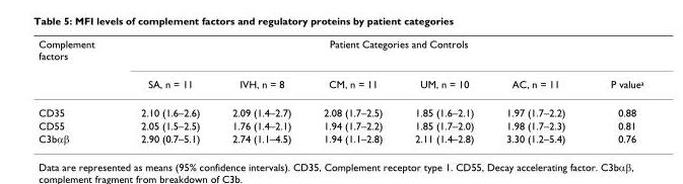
<table><thead><tr><td rowspan="2">Complement factors</td><td colspan="6">Patient Categories and Controls</td></tr><tr><td>SA, n = 11</td><td>IVH, n = 8</td><td>CM, n = 11</td><td>UM, n = 10</td><td>AC, n = 11</td><td>P value<sup>a</sup></td></tr></thead><tbody><tr><td>CD35</td><td>2.10 (1.6–2.6)</td><td>2.09 (1.4–2.7)</td><td>2.08 (1.7–2.5)</td><td>1.85 (1.6–2.1)</td><td>1.97 (1.7–2.2)</td><td>0.88</td></tr><tr><td>CD55</td><td>2.05 (1.5–2.5)</td><td>1.76 (1.4–2.1)</td><td>1.94 (1.7–2.2)</td><td>1.85 (1.7–2.0)</td><td>1.98 (1.7–2.3)</td><td>0.81</td></tr><tr><td>C3bαβ</td><td>2.90 (0.7–5.1)</td><td>2.74 (1.1–4.5)</td><td>1.94 (1.1–2.8)</td><td>2.11 (1.4–2.8)</td><td>3.30 (1.2–5.4)</td><td>0.76</td></tr></tbody></table>